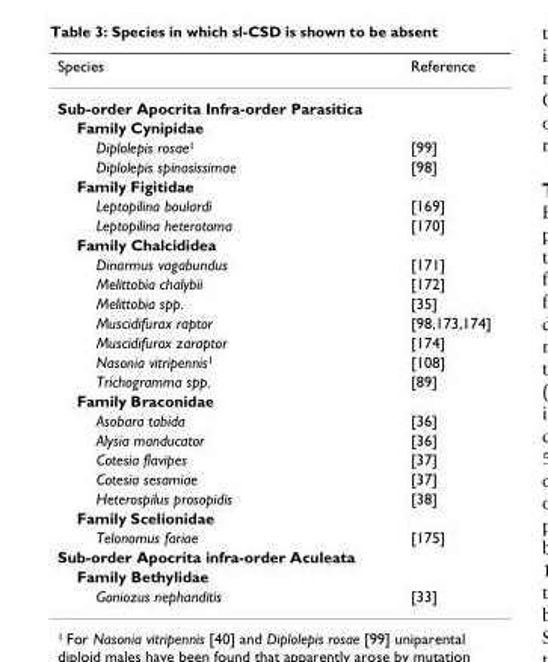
<table><thead><tr><td>Species</td><td>Reference</td></tr></thead><tbody><tr><td colspan="2">Sub-order Apocrita Infra-order Parasitica</td></tr><tr><td colspan="2">Family Cynipidae</td></tr><tr><td>Diplolepis rosae<sup>1</sup></td><td>[99]</td></tr><tr><td>Diplolepis spinosissimae</td><td>[98]</td></tr><tr><td colspan="2">Family Figitidae</td></tr><tr><td>Leptopilina boulardi</td><td>[169]</td></tr><tr><td>Leptopilina heterotoma</td><td>[170]</td></tr><tr><td colspan="2">Family Chalcididea</td></tr><tr><td>Dinarmus vagabundus</td><td>[171]</td></tr><tr><td>Melittobia chalybii</td><td>[172]</td></tr><tr><td>Melittobia spp.</td><td>[35]</td></tr><tr><td>Muscidifurax raptor</td><td>[98,173,174]</td></tr><tr><td>Muscidifurax zaraptor</td><td>[174]</td></tr><tr><td>Nasonia vitripennis<sup>1</sup></td><td>[108]</td></tr><tr><td>Trichogramma spp.</td><td>[89]</td></tr><tr><td colspan="2">Family Braconidae</td></tr><tr><td>Asobara tabida</td><td>[36]</td></tr><tr><td>Alysia manducator</td><td>[36]</td></tr><tr><td>Cotesia flavipes</td><td>[37]</td></tr><tr><td>Cotesia sesamiae</td><td>[37]</td></tr><tr><td>Heterospilus prosopidis</td><td>[38]</td></tr><tr><td colspan="2">Family Scelionidae</td></tr><tr><td>Telonomus fariae</td><td>[175]</td></tr><tr><td colspan="2">Sub-order Apocrita infra-order Aculeata</td></tr><tr><td colspan="2">Family Bethylidae</td></tr><tr><td>Goniozus nephanditis</td><td>[33]</td></tr></tbody></table>